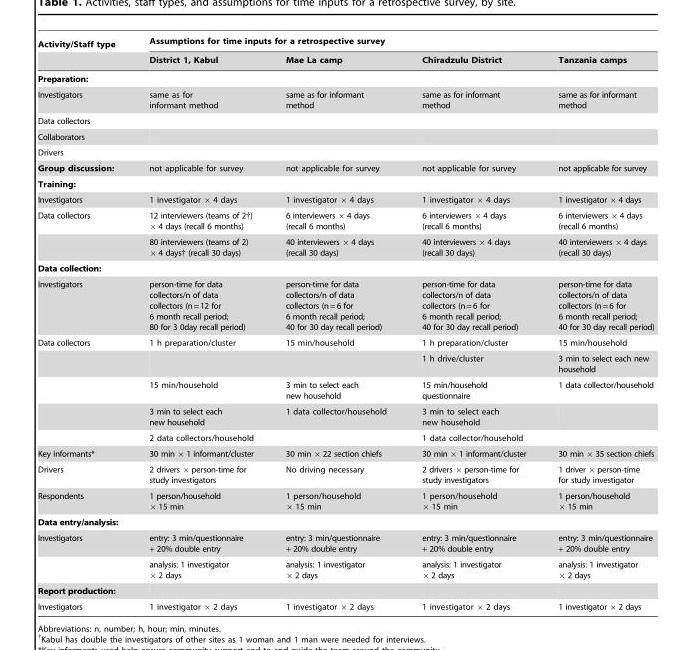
<table><thead><tr><td rowspan="2">Activity/Staff type</td><td colspan="4">Assumptions for time inputs for a retrospective survey</td></tr><tr><td>District 1, Kabul</td><td>Mae La camp</td><td>Chiradzulu District</td><td>Tanzania camps</td></tr></thead><tbody><tr><td colspan="5">Preparation:</td></tr><tr><td>Investigators</td><td>same as for informant method</td><td>same as for informant method</td><td>same as for informant method</td><td>same as for informant method</td></tr><tr><td colspan="5">Data collectors</td></tr><tr><td colspan="5">Collaborators</td></tr><tr><td colspan="5">Drivers</td></tr><tr><td>Group discussion:</td><td>not applicable for survey</td><td>not applicable for survey</td><td>not applicable for survey</td><td>not applicable for survey</td></tr><tr><td colspan="5">Training:</td></tr><tr><td>Investigators</td><td>1 investigator × 4 days</td><td>1 investigator × 4 days</td><td>1 investigator × 4 days</td><td>1 investigator ×4 days</td></tr><tr><td rowspan="2">Data collectors</td><td>12 interviewers (teams of 2†) ×4 days (recall 6 months)</td><td>6 interviewers ×4 days (recall 6 months)</td><td>6 interviewers ×4 days (recall 6 months)</td><td>6 interviewers ×4 days (recall 6 months)</td></tr><tr><td>80 interviewers (teams of 2) ×4 days† (recall 30 days)</td><td>40 interviewers ×4 days (recall 30 days)</td><td>40 interviewers ×4 days (recall 30 days)</td><td>40 interviewers ×4 days (recall 30 days)</td></tr><tr><td colspan="5">Data collection:</td></tr><tr><td>Investigators</td><td>person-time for data collectors/n of data collectors (n=12 for 6 month recall period; 80 for 3 0day recall period)</td><td>person-time for data collectors/n of data collectors (n=6 for 6 month recall period; 40 for 30 day recall period)</td><td>person-time for data collectors/n of data collectors (n=6 for 6 month recall period; 40 for 30 day recall period)</td><td>person-time for data collectors/n of data collectors (n=6 for 6 month recall period; 40 for 30 day recall period)</td></tr><tr><td rowspan="5">Data collectors</td><td>1 h preparation/cluster</td><td>15 min/household</td><td>1 h preparation/cluster</td><td>15 min/household</td></tr><tr><td></td><td></td><td>1 h drive/cluster</td><td>3 min to select each new household</td></tr><tr><td>15 min/household</td><td>3 min to select each new household</td><td>15 min/household questionnaire</td><td>1 data collector/household</td></tr><tr><td>3 min to select each new household</td><td>1 data collector/household</td><td>3 min to select each new household</td><td></td></tr><tr><td>2 data collectors/household</td><td></td><td>1 data collector/household</td><td></td></tr><tr><td>Key informants*</td><td>30 min ×1 informant/cluster</td><td>30 min ×22 section chiefs</td><td>30 min ×1 informant/cluster</td><td>30 min ×35 section chiefs</td></tr><tr><td>Drivers</td><td>2 drivers ×person-time for study investigators</td><td>No driving necessary</td><td>2 drivers ×person-time for study investigators</td><td>1 driver ×person-time for study investigator</td></tr><tr><td>Respondents</td><td>1 person/household ×15 min</td><td>1 person/household × 15 min</td><td>1 person/household × 15 min</td><td>1 person/household ×15 min</td></tr><tr><td colspan="5">Data entry/analysis:</td></tr><tr><td rowspan="2">Investigators</td><td>entry: 3 min/questionnaire + 20% double entry</td><td>entry: 3 min/questionnaire + 20% double entry</td><td>entry: 3 min/questionnaire + 20% double entry</td><td>entry: 3 min/questionnaire + 20% double entry</td></tr><tr><td>analysis: 1 investigator ×2 days</td><td>analysis: 1 investigator ×2 days</td><td>analysis: 1 investigator ×2 days</td><td>analysis: 1 investigator ×2 days</td></tr><tr><td colspan="5">Report production:</td></tr><tr><td>Investigators</td><td>1 investigator × 2 days</td><td>1 investigator × 2 days</td><td>1 investigator × 2 days</td><td>1 investigator ×2 days</td></tr></tbody></table>